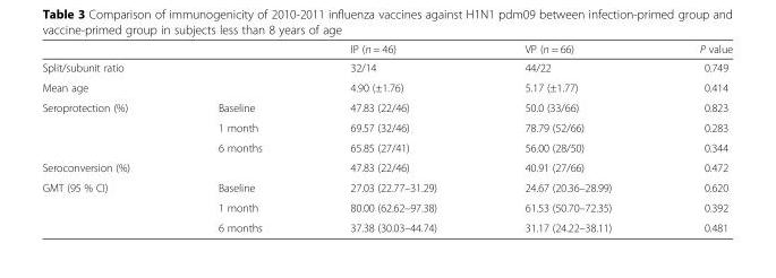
<table><thead><tr><td></td><td></td><td>IP (n = 46)</td><td>VP (n = 66)</td><td>P value</td></tr></thead><tbody><tr><td>Split/subunit ratio</td><td></td><td>32/14</td><td>44/22</td><td>0.749</td></tr><tr><td>Mean age</td><td></td><td>4.90 (±1.76)</td><td>5.17 (±1.77)</td><td>0.414</td></tr><tr><td rowspan="3">Seroprotection (%)</td><td>Baseline</td><td>47.83 (22/46)</td><td>50.0 (33/66)</td><td>0.823</td></tr><tr><td>1 month</td><td>69.57 (32/46)</td><td>78.79 (52/66)</td><td>0.283</td></tr><tr><td>6 months</td><td>65.85 (27/41)</td><td>56.00 (28/50)</td><td>0.344</td></tr><tr><td>Seroconversion (%)</td><td></td><td>47.83 (22/46)</td><td>40.91 (27/66)</td><td>0.472</td></tr><tr><td rowspan="3">GMT (95 % CI)</td><td>Baseline</td><td>27.03 (22.77–31.29)</td><td>24.67 (20.36–28.99)</td><td>0.620</td></tr><tr><td>1 month</td><td>80.00 (62.62–97.38)</td><td>61.53 (50.70–72.35)</td><td>0.392</td></tr><tr><td>6 months</td><td>37.38 (30.03–44.74)</td><td>31.17 (24.22–38.11)</td><td>0.481</td></tr></tbody></table>